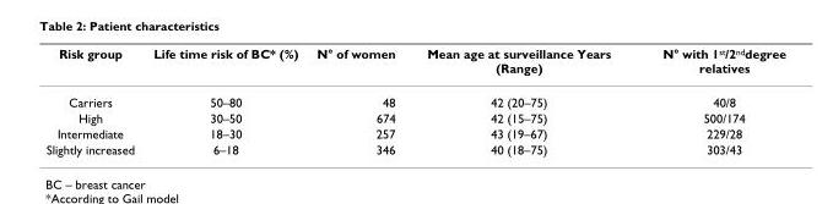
<table><thead><tr><td>Risk group</td><td>Life time risk of BC* (%)</td><td>N° of women</td><td>Mean age at surveillance Years (Range)</td><td>N° with 1st/2nddegree relatives</td></tr></thead><tbody><tr><td>Carriers</td><td>50–80</td><td>48</td><td>42 (20–75)</td><td>40/8</td></tr><tr><td>High</td><td>30–50</td><td>674</td><td>42 (15–75)</td><td>500/174</td></tr><tr><td>Intermediate</td><td>18–30</td><td>257</td><td>43 (19–67)</td><td>229/28</td></tr><tr><td>Slightly increased</td><td>6–18</td><td>346</td><td>40 (18–75)</td><td>303/43</td></tr></tbody></table>